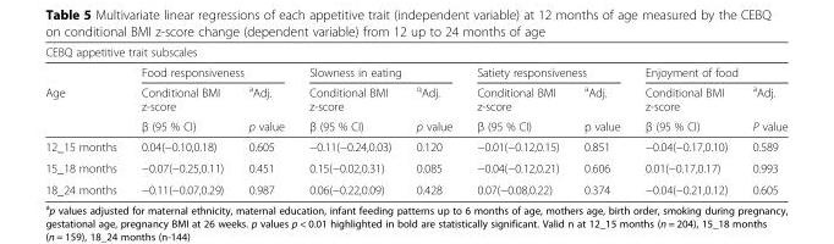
<table><thead><tr><td colspan="9">CEBQ appetitive trait subscales</td></tr><tr><td rowspan="3">Age</td><td colspan="2">Food responsiveness</td><td colspan="2">Slowness in eating</td><td colspan="2">Satiety responsiveness</td><td colspan="2">Enjoyment of food</td></tr><tr><td rowspan="2">Conditional BMI z-score β (95 % CI)</td><td rowspan="2">aAdj. p value</td><td rowspan="2">Conditional BMI z-score β (95 % CI)</td><td rowspan="2">qAdj. p value</td><td rowspan="2">Conditional BMI z-score β (95 % CI)</td><td rowspan="2">aAdj. p value</td><td rowspan="2">Conditional BMI z-score β (95 % CI)</td><td rowspan="2">aAdj. P value</td></tr><tr></tr></thead><tbody><tr><td>12_15 months</td><td>0.04(−0.10,0.18)</td><td>0.605</td><td>−0.11(−0.24,0.03)</td><td>0.120</td><td>−0.01(−0.12,0.15)</td><td>0.851</td><td>−0.04(−0.17,0.10)</td><td>0.589</td></tr><tr><td>15_18 months</td><td>−0.07(−0.25,0.11)</td><td>0.451</td><td>0.15(−0.02,0.31)</td><td>0.085</td><td>−0.04(−0.12,0.21)</td><td>0.606</td><td>0.01(−0.17,0.17)</td><td>0.993</td></tr><tr><td>18_24 months</td><td>−0.11(−0.07,0.29)</td><td>0.987</td><td>0.06(−0.22,0.09)</td><td>0.428</td><td>0.07(−0.08,0.22)</td><td>0.374</td><td>−0.04(−0.21,0.12)</td><td>0.605</td></tr></tbody></table>